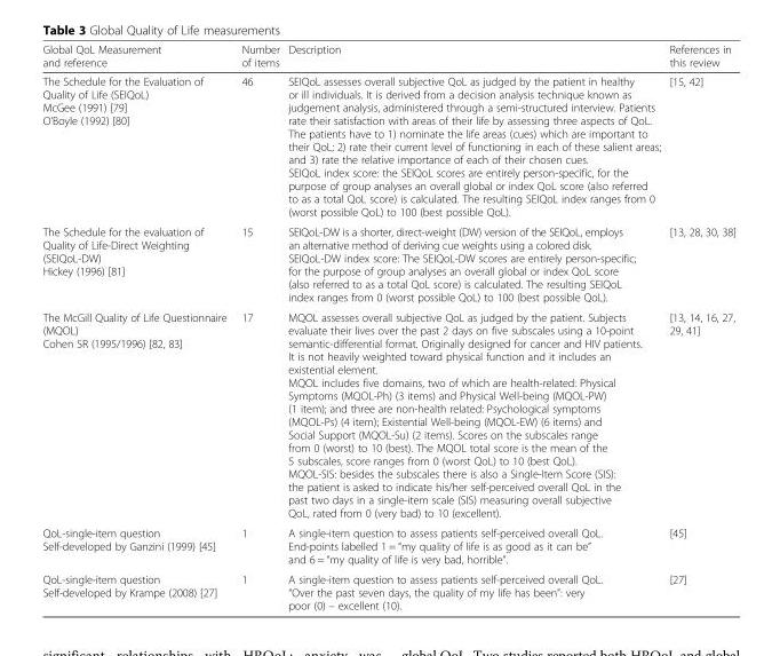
<table><thead><tr><td>Global QoL Measurement and reference</td><td>Number of items</td><td>Description</td><td>References in this review</td></tr></thead><tbody><tr><td>The Schedule for the Evaluation of Quality of Life (SEIQoL) McGee (1991) [79] O’Boyle (1992) [80]</td><td>46</td><td>SEIQoL assesses overall subjective QoL as judged by the patient in healthy or ill individuals. It is derived from a decision analysis technique known as judgement analysis, administered through a semi-structured interview. Patients rate their satisfaction with areas of their life by assessing three aspects of QoL. The patients have to 1) nominate the life areas (cues) which are important to their QoL; 2) rate their current level of functioning in each of these salient areas; and 3) rate the relative importance of each of their chosen cues. SEIQoL index score: the SEIQoL scores are entirely person-specific, for the purpose of group analyses an overall global or index QoL score (also referred to as a total QoL score) is calculated. The resulting SEIQoL index ranges from 0 (worst possible QoL) to 100 (best possible QoL).</td><td>[15, 42]</td></tr><tr><td>The Schedule for the evaluation of Quality of Life-Direct Weighting (SEIQoL-DW) Hickey (1996) [81]</td><td>15</td><td>SEIQoL-DW is a shorter, direct-weight (DW) version of the SEIQoL, employs an alternative method of deriving cue weights using a colored disk. SEIQoL-DW index score: The SEIQoL-DW scores are entirely person-specific; for the purpose of group analyses an overall global or index QoL score (also referred to as a total QoL score) is calculated. The resulting SEIQoL index ranges from 0 (worst possible QoL) to 100 (best possible QoL).</td><td>[13, 28, 30, 38]</td></tr><tr><td>The McGill Quality of Life Questionnaire (MQOL) Cohen SR (1995/1996) [82, 83]</td><td>17</td><td>MQOL assesses overall subjective QoL as judged by the patient. Subjects evaluate their lives over the past 2 days on five subscales using a 10-point semantic-differential format. Originally designed for cancer and HIV patients. It is not heavily weighted toward physical function and it includes an existential element. MQOL includes five domains, two of which are health-related: Physical Symptoms (MQOL-Ph) (3 items) and Physical Well-being (MQOL-PW) (1 item); and three are non-health related: Psychological symptoms (MQOL-Ps) (4 item); Existential Well-being (MQOL-EW) (6 items) and Social Support (MQOL-Su) (2 items). Scores on the subscales range from 0 (worst) to 10 (best). The MQOL total score is the mean of the 5 subscales, score ranges from 0 (worst QoL) to 10 (best QoL). MQOL-SIS: besides the subscales there is also a Single-Item Score (SIS): the patient is asked to indicate his/her self-perceived overall QoL in the past two days in a single-item scale (SIS) measuring overall subjective QoL, rated from 0 (very bad) to 10 (excellent).</td><td>[13, 14, 16, 27, 29, 41]</td></tr><tr><td>QoL-single-item question Self-developed by Ganzini (1999) [45]</td><td>1</td><td>A single-item question to assess patients self-perceived overall QoL. End-points labelled 1 = “my quality of life is as good as it can be” and 6 = “my quality of life is very bad, horrible”.</td><td>[45]</td></tr><tr><td>QoL-single-item question Self-developed by Krampe (2008) [27]</td><td>1</td><td>A single-item question to assess patients self-perceived overall QoL. “Over the past seven days, the quality of my life has been”: very poor (0) – excellent (10).</td><td>[27]</td></tr></tbody></table>